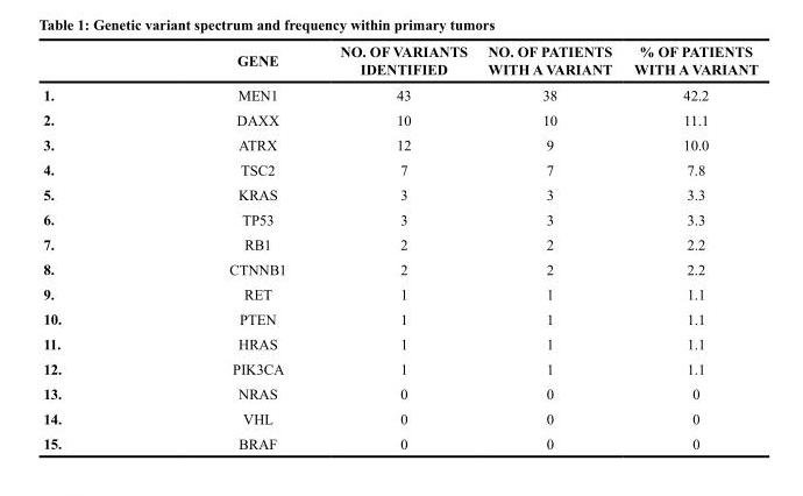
<table><thead><tr><td></td><td>GENE</td><td>NO. OF VARIANTS IDENTIFIED</td><td>NO. OF PATIENTS WITH A VARIANT</td><td>% OF PATIENTS WITH A VARIANT</td></tr></thead><tbody><tr><td>1.</td><td>MEN1</td><td>43</td><td>38</td><td>42.2</td></tr><tr><td>2.</td><td>DAXX</td><td>10</td><td>10</td><td>11.1</td></tr><tr><td>3.</td><td>ATRX</td><td>12</td><td>9</td><td>10.0</td></tr><tr><td>4.</td><td>TSC2</td><td>7</td><td>7</td><td>7.8</td></tr><tr><td>5.</td><td>KRAS</td><td>3</td><td>3</td><td>3.3</td></tr><tr><td>6.</td><td>TP53</td><td>3</td><td>3</td><td>3.3</td></tr><tr><td>7.</td><td>RB1</td><td>2</td><td>2</td><td>2.2</td></tr><tr><td>8.</td><td>CTNNB1</td><td>2</td><td>2</td><td>2.2</td></tr><tr><td>9.</td><td>RET</td><td>1</td><td>1</td><td>1.1</td></tr><tr><td>10.</td><td>PTEN</td><td>1</td><td>1</td><td>1.1</td></tr><tr><td>11.</td><td>HRAS</td><td>1</td><td>1</td><td>1.1</td></tr><tr><td>12.</td><td>PIK3CA</td><td>1</td><td>1</td><td>1.1</td></tr><tr><td>13.</td><td>NRAS</td><td>0</td><td>0</td><td>0</td></tr><tr><td>14.</td><td>VHL</td><td>0</td><td>0</td><td>0</td></tr><tr><td>15.</td><td>BRAF</td><td>0</td><td>0</td><td>0</td></tr></tbody></table>